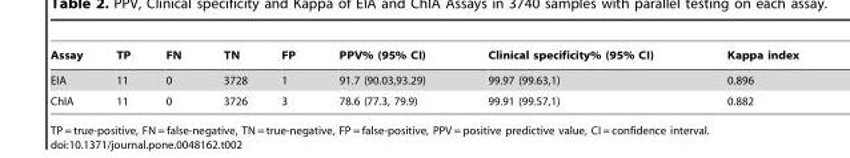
<table><thead><tr><td>Assay</td><td>TP</td><td>FN</td><td>TN</td><td>FP</td><td>PPV% (95% CI)</td><td>Clinical specificity% (95% CI)</td><td>Kappa index</td></tr></thead><tbody><tr><td>EIA</td><td>11</td><td>0</td><td>3728</td><td>1</td><td>91.7 (90.03,93.29)</td><td>99.97 (99.63,1)</td><td>0.896</td></tr><tr><td>ChIA</td><td>11</td><td>0</td><td>3726</td><td>3</td><td>78.6 (77.3, 79.9)</td><td>99.91 (99.57,1)</td><td>0.882</td></tr></tbody></table>